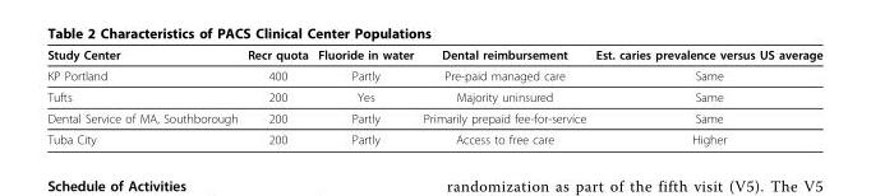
<table><thead><tr><td>Study Center</td><td>Recr quota</td><td>Fluoride in water</td><td>Dental reimbursement</td><td>Est. caries prevalence versus US average</td></tr></thead><tbody><tr><td>KP Portland</td><td>400</td><td>Partly</td><td>Pre-paid managed care</td><td>Same</td></tr><tr><td>Tufts</td><td>200</td><td>Yes</td><td>Majority uninsured</td><td>Same</td></tr><tr><td>Dental Service of MA, Southborough</td><td>200</td><td>Partly</td><td>Primarily prepaid fee-for-service</td><td>Same</td></tr><tr><td>Tuba City</td><td>200</td><td>Partly</td><td>Access to free care</td><td>Higher</td></tr></tbody></table>